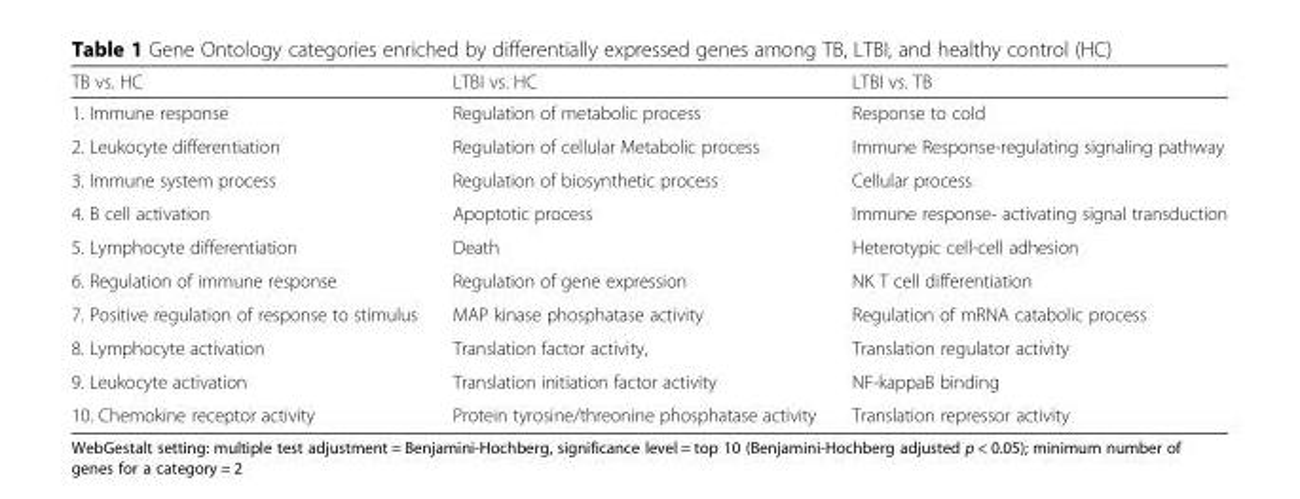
<table><thead><tr><td>TB vs. HC</td><td>LTBI vs. HC</td><td>LTBI vs. TB</td></tr></thead><tbody><tr><td>1. Immune response</td><td>Regulation of metabolic process</td><td>Response to cold</td></tr><tr><td>2. Leukocyte differentiation</td><td>Regulation of cellular Metabolic process</td><td>Immune Response-regulating signaling pathway</td></tr><tr><td>3. Immune system process</td><td>Regulation of biosynthetic process</td><td>Cellular process</td></tr><tr><td>4. B cell activation</td><td>Apoptotic process</td><td>Immune response- activating signal transduction</td></tr><tr><td>5. Lymphocyte differentiation</td><td>Death</td><td>Heterotypic cell-cell adhesion</td></tr><tr><td>6. Regulation of immune response</td><td>Regulation of gene expression</td><td>NK T cell differentiation</td></tr><tr><td>7. Positive regulation of response to stimulus</td><td>MAP kinase phosphatase activity</td><td>Regulation of mRNA catabolic process</td></tr><tr><td>8. Lymphocyte activation</td><td>Translation factor activity,</td><td>Translation regulator activity</td></tr><tr><td>9. Leukocyte activation</td><td>Translation initiation factor activity</td><td>NF-kappaB binding</td></tr><tr><td>10. Chemokine receptor activity</td><td>Protein tyrosine/threonine phosphatase activity</td><td>Translation repressor activity</td></tr></tbody></table>